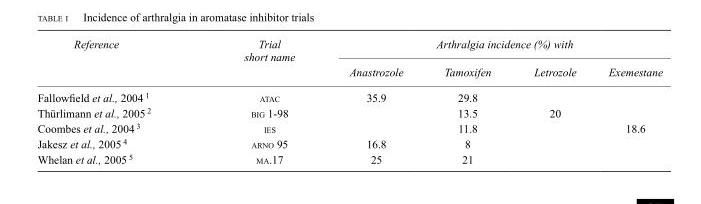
<table><thead><tr><td rowspan="2">Reference</td><td rowspan="2">Trial short name</td><td colspan="4">Arthralgia incidence (%) with</td></tr><tr><td>Anastrozole</td><td>Tamoxifen</td><td>Letrozole</td><td>Exemestane</td></tr></thead><tbody><tr><td>Fallowfield et al., 2004 <sup>1</sup></td><td>atac</td><td>35.9</td><td>29.8</td><td></td><td></td></tr><tr><td>Thürlimann et al., 2005 <sup>2</sup></td><td>big 1-98</td><td></td><td>13.5</td><td>20</td><td></td></tr><tr><td>Coombes et al., 2004 <sup>3</sup></td><td>ies</td><td></td><td>11.8</td><td></td><td>18.6</td></tr><tr><td>Jakesz et al., 2005 <sup>4</sup></td><td>arno 95</td><td>16.8</td><td>8</td><td></td><td></td></tr><tr><td>Whelan et al., 2005 <sup>5</sup></td><td>ma.17</td><td>25</td><td>21</td><td></td><td></td></tr></tbody></table>